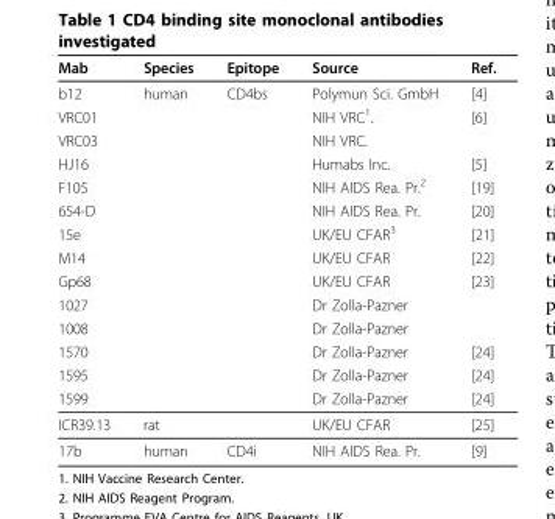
<table><thead><tr><td>Mab</td><td>Species</td><td>Epitope</td><td>Source</td><td>Ref.</td></tr></thead><tbody><tr><td>b12</td><td>human</td><td>CD4bs</td><td>Polymun Sci. GmbH</td><td>[4]</td></tr><tr><td>VRC01</td><td></td><td></td><td>NIH VRC<sup>1</sup>.</td><td>[6]</td></tr><tr><td>VRC03</td><td></td><td></td><td>NIH VRC.</td><td></td></tr><tr><td>HJ16</td><td></td><td></td><td>Humabs Inc.</td><td>[5]</td></tr><tr><td>F105</td><td></td><td></td><td>NIH AIDS Rea. Pr.<sup>2</sup></td><td>[19]</td></tr><tr><td>654-D</td><td></td><td></td><td>NIH AIDS Rea. Pr.</td><td>[20]</td></tr><tr><td>15e</td><td></td><td></td><td>UK/EU CFAR<sup>3</sup></td><td>[21]</td></tr><tr><td>M14</td><td></td><td></td><td>UK/EU CFAR</td><td>[22]</td></tr><tr><td>Gp68</td><td></td><td></td><td>UK/EU CFAR</td><td>[23]</td></tr><tr><td>1027</td><td></td><td></td><td>Dr Zolla-Pazner</td><td></td></tr><tr><td>1008</td><td></td><td></td><td>Dr Zolla-Pazner</td><td></td></tr><tr><td>1570</td><td></td><td></td><td>Dr Zolla-Pazner</td><td>[24]</td></tr><tr><td>1595</td><td></td><td></td><td>Dr Zolla-Pazner</td><td>[24]</td></tr><tr><td>1599</td><td></td><td></td><td>Dr Zolla-Pazner</td><td>[24]</td></tr><tr><td>ICR39.13</td><td>rat</td><td></td><td>UK/EU CFAR</td><td>[25]</td></tr><tr><td>17b</td><td>human</td><td>CD4i</td><td>NIH AIDS Rea. Pr.</td><td>[9]</td></tr></tbody></table>